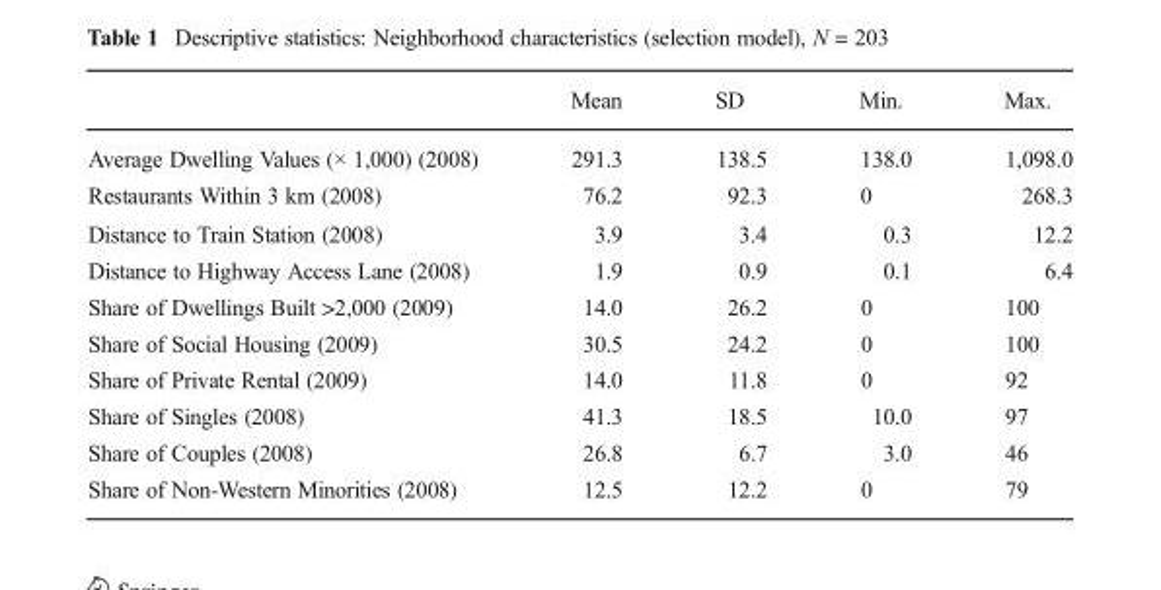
<table><thead><tr><td></td><td>Mean</td><td>SD</td><td>Min.</td><td>Max.</td></tr></thead><tbody><tr><td>Average Dwelling Values (× 1,000) (2008)</td><td>291.3</td><td>138.5</td><td>138.0</td><td>1,098.0</td></tr><tr><td>Restaurants Within 3 km (2008)</td><td>76.2</td><td>92.3</td><td>0</td><td>268.3</td></tr><tr><td>Distance to Train Station (2008)</td><td>3.9</td><td>3.4</td><td>0.3</td><td>12.2</td></tr><tr><td>Distance to Highway Access Lane (2008)</td><td>1.9</td><td>0.9</td><td>0.1</td><td>6.4</td></tr><tr><td>Share of Dwellings Built &gt;2,000 (2009)</td><td>14.0</td><td>26.2</td><td>0</td><td>100</td></tr><tr><td>Share of Social Housing (2009)</td><td>30.5</td><td>24.2</td><td>0</td><td>100</td></tr><tr><td>Share of Private Rental (2009)</td><td>14.0</td><td>11.8</td><td>0</td><td>92</td></tr><tr><td>Share of Singles (2008)</td><td>41.3</td><td>18.5</td><td>10.0</td><td>97</td></tr><tr><td>Share of Couples (2008)</td><td>26.8</td><td>6.7</td><td>3.0</td><td>46</td></tr><tr><td>Share of Non-Western Minorities (2008)</td><td>12.5</td><td>12.2</td><td>0</td><td>79</td></tr></tbody></table>